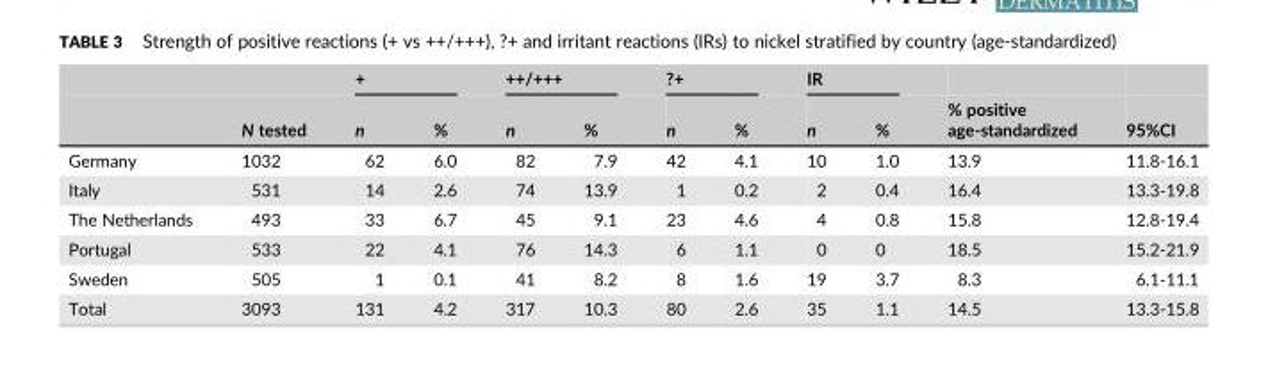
<table><thead><tr><td rowspan="2"></td><td rowspan="2">N tested</td><td colspan="2">+</td><td colspan="2">++/+++</td><td colspan="2">?+</td><td colspan="2">IR</td><td rowspan="2">% positive age-standardized</td><td rowspan="2">95%CI</td></tr><tr><td>n</td><td>%</td><td>n</td><td>%</td><td>n</td><td>%</td><td>n</td><td>%</td></tr></thead><tbody><tr><td>Germany</td><td>1032</td><td>62</td><td>6.0</td><td>82</td><td>7.9</td><td>42</td><td>4.1</td><td>10</td><td>1.0</td><td>13.9</td><td>11.8-16.1</td></tr><tr><td>Italy</td><td>531</td><td>14</td><td>2.6</td><td>74</td><td>13.9</td><td>1</td><td>0.2</td><td>2</td><td>0.4</td><td>16.4</td><td>13.3-19.8</td></tr><tr><td>The Netherlands</td><td>493</td><td>33</td><td>6.7</td><td>45</td><td>9.1</td><td>23</td><td>4.6</td><td>4</td><td>0.8</td><td>15.8</td><td>12.8-19.4</td></tr><tr><td>Portugal</td><td>533</td><td>22</td><td>4.1</td><td>76</td><td>14.3</td><td>6</td><td>1.1</td><td>0</td><td>0</td><td>18.5</td><td>15.2-21.9</td></tr><tr><td>Sweden</td><td>505</td><td>1</td><td>0.1</td><td>41</td><td>8.2</td><td>8</td><td>1.6</td><td>19</td><td>3.7</td><td>8.3</td><td>6.1-11.1</td></tr><tr><td>Total</td><td>3093</td><td>131</td><td>4.2</td><td>317</td><td>10.3</td><td>80</td><td>2.6</td><td>35</td><td>1.1</td><td>14.5</td><td>13.3-15.8</td></tr></tbody></table>